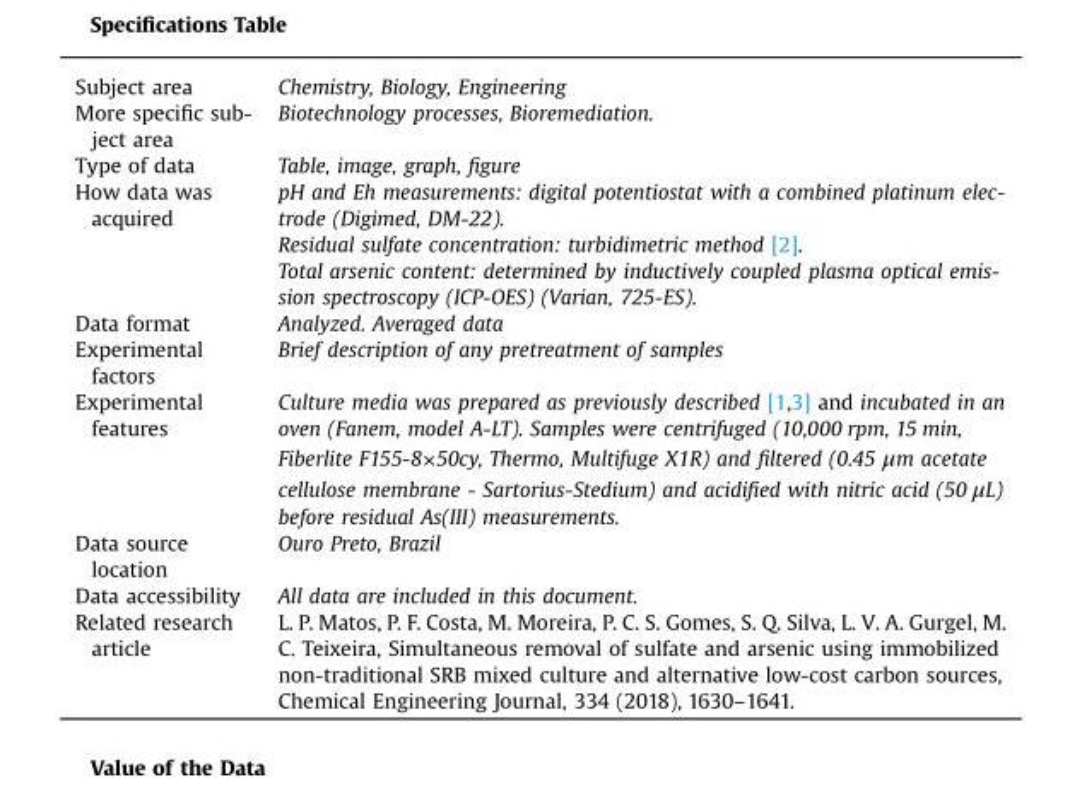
<table><tbody><tr><td>Subject area</td><td>Chemistry, Biology, Engineering</td></tr><tr><td>More specific sub- ject area</td><td>Biotechnology processes, Bioremediation.</td></tr><tr><td>Type of data</td><td>Table, image, graph, figure</td></tr><tr><td rowspan="3">How data was acquired</td><td>pH and Eh measurements: digital potentiostat with a combined platinum elec- trode (Digimed, DM-22).</td></tr><tr><td>Residual sulfate concentration: turbidimetric method [2].</td></tr><tr><td>Total arsenic content: determined by inductively coupled plasma optical emis- sion spectroscopy (ICP-OES) (Varian, 725-ES).</td></tr><tr><td>Data format</td><td>Analyzed. Averaged data</td></tr><tr><td>Experimental factors</td><td>Brief description of any pretreatment of samples</td></tr><tr><td>Experimental features</td><td>Culture media was prepared as previously described [1,3] and incubated in an oven (Fanem, model A-LT). Samples were centrifuged (10,000 rpm, 15 min, Fiberlite F155-8×50cy, Thermo, Multifuge X1R) and filtered (0.45 μm acetate cellulose membrane - Sartorius-Stedium) and acidified with nitric acid (50 μL) before residual As(III) measurements.</td></tr><tr><td>Data source location</td><td>Ouro Preto, Brazil</td></tr><tr><td>Data accessibility</td><td>All data are included in this document.</td></tr><tr><td>Related research article</td><td>L. P. Matos, P. F. Costa, M. Moreira, P. C. S. Gomes, S. Q. Silva, L. V. A. Gurgel, M. C. Teixeira, Simultaneous removal of sulfate and arsenic using immobilized non-traditional SRB mixed culture and alternative low-cost carbon sources, Chemical Engineering Journal, 334 (2018), 1630–1641.</td></tr></tbody></table>